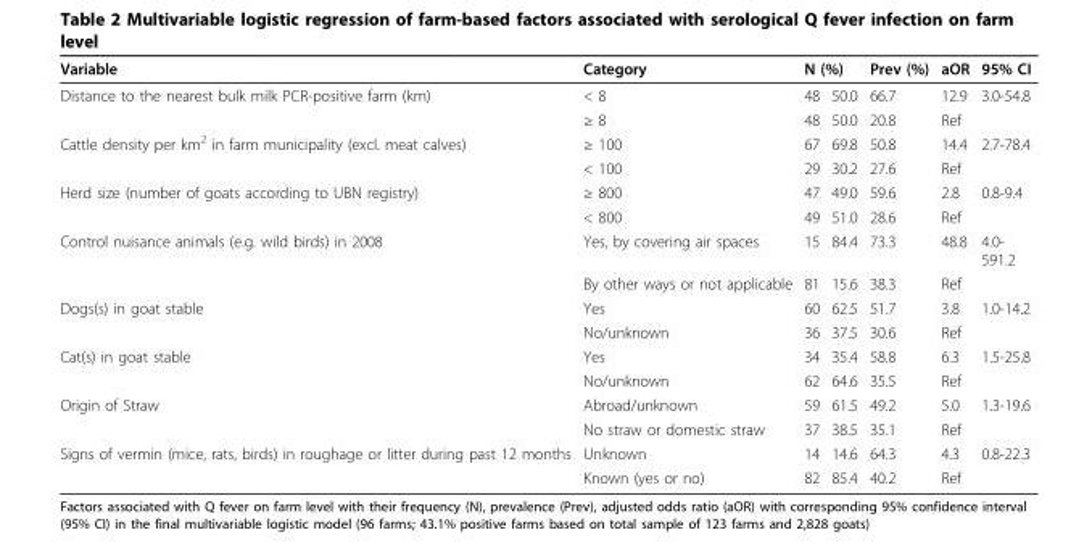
<table><thead><tr><td rowspan="2">Variable Distance to the nearest bulk milk PCR-positive farm (km)</td><td rowspan="2">Category &lt; 8</td><td colspan="2">N (%)</td><td rowspan="2">Prev (%) 66.7</td><td rowspan="2">aOR 12.9</td><td rowspan="2">95% CI 3.0-54.8</td></tr><tr><td>48</td><td>50.0</td></tr></thead><tbody><tr><td></td><td>≥ 8</td><td>48</td><td>50.0</td><td>20.8</td><td>Ref</td><td></td></tr><tr><td rowspan="2">Cattle density per km<sup>2</sup> in farm municipality (excl. meat calves)</td><td>≥ 100</td><td>67</td><td>69.8</td><td>50.8</td><td>14.4</td><td>2.7-78.4</td></tr><tr><td>&lt; 100</td><td>29</td><td>30.2</td><td>27.6</td><td>Ref</td><td></td></tr><tr><td rowspan="2">Herd size (number of goats according to UBN registry)</td><td>≥ 800</td><td>47</td><td>49.0</td><td>59.6</td><td>2.8</td><td>0.8-9.4</td></tr><tr><td>&lt; 800</td><td>49</td><td>51.0</td><td>28.6</td><td>Ref</td><td></td></tr><tr><td rowspan="2">Control nuisance animals (e.g. wild birds) in 2008</td><td>Yes, by covering air spaces</td><td>15</td><td>84.4</td><td>73.3</td><td>48.8</td><td>4.0- 591.2</td></tr><tr><td>By other ways or not applicable</td><td>81</td><td>15.6</td><td>38.3</td><td>Ref</td><td></td></tr><tr><td rowspan="2">Dogs(s) in goat stable</td><td>Yes</td><td>60</td><td>62.5</td><td>51.7</td><td>3.8</td><td>1.0-14.2</td></tr><tr><td>No/unknown</td><td>36</td><td>37.5</td><td>30.6</td><td>Ref</td><td></td></tr><tr><td rowspan="2">Cat(s) in goat stable</td><td>Yes</td><td>34</td><td>35.4</td><td>58.8</td><td>6.3</td><td>1.5-25.8</td></tr><tr><td>No/unknown</td><td>62</td><td>64.6</td><td>35.5</td><td>Ref</td><td></td></tr><tr><td rowspan="2">Origin of Straw</td><td>Abroad/unknown</td><td>59</td><td>61.5</td><td>49.2</td><td>5.0</td><td>1.3-19.6</td></tr><tr><td>No straw or domestic straw</td><td>37</td><td>38.5</td><td>35.1</td><td>Ref</td><td></td></tr><tr><td rowspan="2">Signs of vermin (mice, rats, birds) in roughage or litter during past 12 months</td><td>Unknown</td><td>14</td><td>14.6</td><td>64.3</td><td>4.3</td><td>0.8-22.3</td></tr><tr><td>Known (yes or no)</td><td>82</td><td>85.4</td><td>40.2</td><td>Ref</td><td></td></tr></tbody></table>